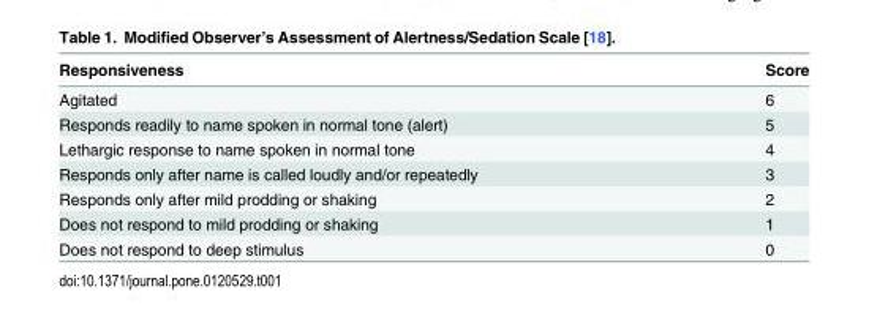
<table><thead><tr><td>Responsiveness</td><td>Score</td></tr></thead><tbody><tr><td>Agitated</td><td>6</td></tr><tr><td>Responds readily to name spoken in normal tone (alert)</td><td>5</td></tr><tr><td>Lethargic response to name spoken in normal tone</td><td>4</td></tr><tr><td>Responds only after name is called loudly and/or repeatedly</td><td>3</td></tr><tr><td>Responds only after mild prodding or shaking</td><td>2</td></tr><tr><td>Does not respond to mild prodding or shaking</td><td>1</td></tr><tr><td>Does not respond to deep stimulus</td><td>0</td></tr></tbody></table>